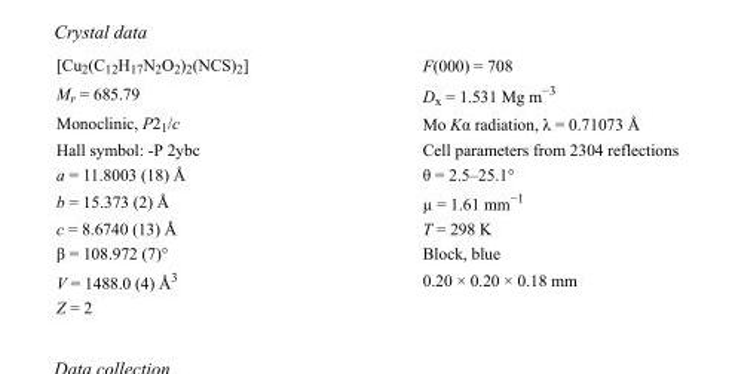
<table><tbody><tr><td>[Cu<sub>2</sub>(C<sub>12</sub>H<sub>17</sub>N<sub>2</sub>O<sub>2</sub>)<sub>2</sub>(NCS)<sub>2</sub>]</td><td>F(000) = 708</td></tr><tr><td>M<sub>r</sub> = 685.79</td><td>D<sub>x</sub> = 1.531 Mg m<sup>−3</sup></td></tr><tr><td>Monoclinic, P2<sub>1</sub>/c</td><td>Mo Kα radiation, λ = 0.71073 Å</td></tr><tr><td>Hall symbol: -P 2ybc</td><td>Cell parameters from 2304 reflections</td></tr><tr><td>a = 11.8003 (18) Å</td><td>θ = 2.5–25.1°</td></tr><tr><td>b = 15.373 (2) Å</td><td>µ = 1.61 mm<sup>−1</sup></td></tr><tr><td>c = 8.6740 (13) Å</td><td>T = 298 K</td></tr><tr><td>β = 108.972 (7)°</td><td>Block, blue</td></tr><tr><td>V = 1488.0 (4) Å<sup>3</sup></td><td>0.20 × 0.20 × 0.18 mm</td></tr><tr><td>Z = 2</td><td></td></tr></tbody></table>